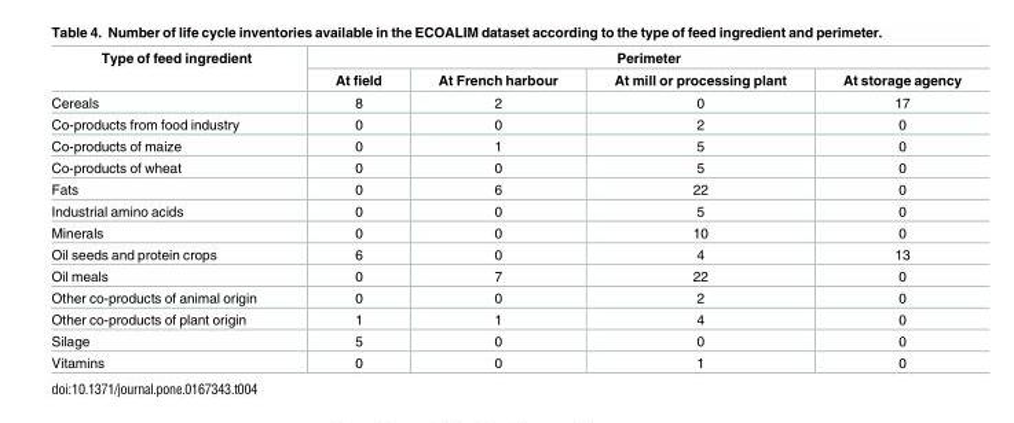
<table><thead><tr><td rowspan="2">Type of feed ingredient</td><td colspan="4">Perimeter</td></tr><tr><td>At field</td><td>At French harbour</td><td>At mill or processing plant</td><td>At storage agency</td></tr></thead><tbody><tr><td>Cereals</td><td>8</td><td>2</td><td>0</td><td>17</td></tr><tr><td>Co-products from food industry</td><td>0</td><td>0</td><td>2</td><td>0</td></tr><tr><td>Co-products of maize</td><td>0</td><td>1</td><td>5</td><td>0</td></tr><tr><td>Co-products of wheat</td><td>0</td><td>0</td><td>5</td><td>0</td></tr><tr><td>Fats</td><td>0</td><td>6</td><td>22</td><td>0</td></tr><tr><td>Industrial amino acids</td><td>0</td><td>0</td><td>5</td><td>0</td></tr><tr><td>Minerals</td><td>0</td><td>0</td><td>10</td><td>0</td></tr><tr><td>Oil seeds and protein crops</td><td>6</td><td>0</td><td>4</td><td>13</td></tr><tr><td>Oil meals</td><td>0</td><td>7</td><td>22</td><td>0</td></tr><tr><td>Other co-products of animal origin</td><td>0</td><td>0</td><td>2</td><td>0</td></tr><tr><td>Other co-products of plant origin</td><td>1</td><td>1</td><td>4</td><td>0</td></tr><tr><td>Silage</td><td>5</td><td>0</td><td>0</td><td>0</td></tr><tr><td>Vitamins</td><td>0</td><td>0</td><td>1</td><td>0</td></tr></tbody></table>